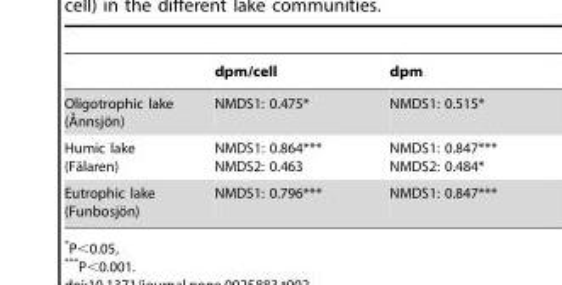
<table><thead><tr><td></td><td>dpm/cell</td><td>dpm</td></tr></thead><tbody><tr><td>Oligotrophic lake (A˚nnsjo¨n)</td><td>NMDS1: 0.475*</td><td>NMDS1: 0.515*</td></tr><tr><td>Humic lake (Fa¨laren)</td><td>NMDS1: 0.864*** NMDS2: 0.463</td><td>NMDS1: 0.847*** NMDS2: 0.484*</td></tr><tr><td>Eutrophic lake (Funbosjo¨n)</td><td>NMDS1: 0.796***</td><td>NMDS1: 0.847***</td></tr></tbody></table>